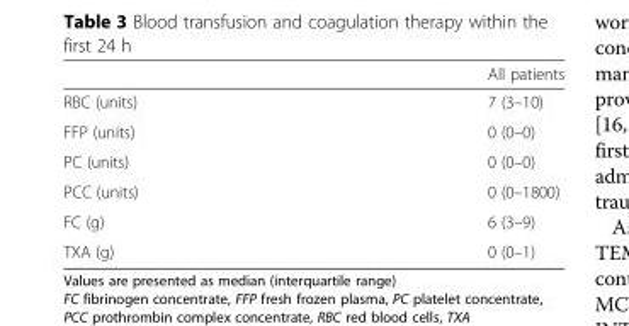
<table><thead><tr><td></td><td>All patients</td></tr></thead><tbody><tr><td>RBC (units)</td><td>7 (3–10)</td></tr><tr><td>FFP (units)</td><td>0 (0–0)</td></tr><tr><td>PC (units)</td><td>0 (0–0)</td></tr><tr><td>PCC (units)</td><td>0 (0–1800)</td></tr><tr><td>FC (g)</td><td>6 (3–9)</td></tr><tr><td>TXA (g)</td><td>0 (0–1)</td></tr></tbody></table>